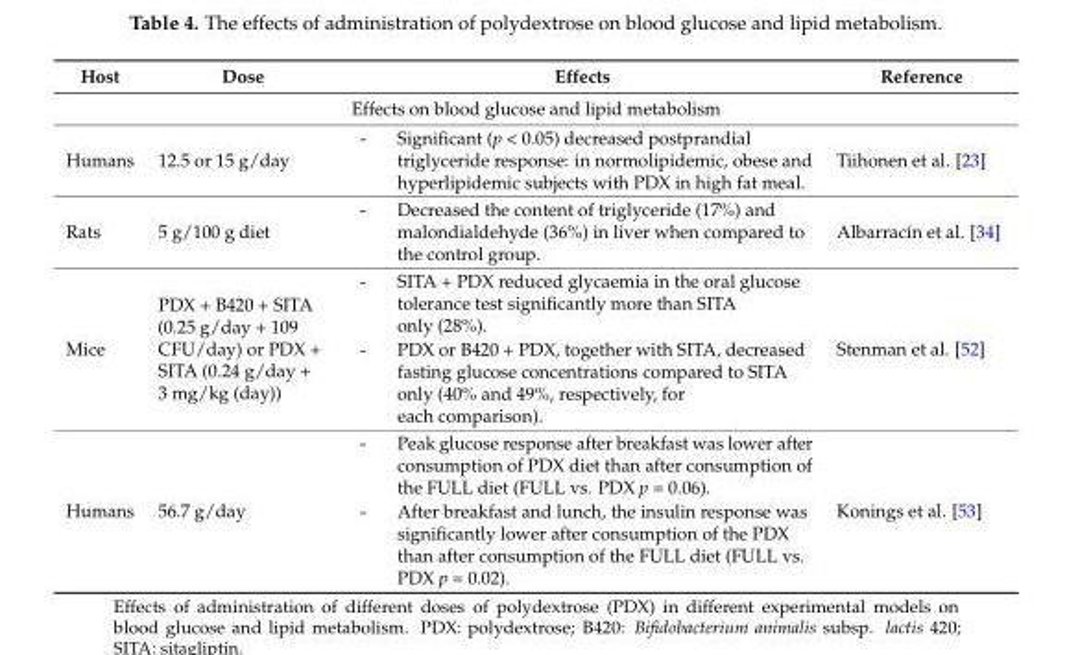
<table><thead><tr><td>Host</td><td>Dose</td><td>Effects</td><td>Reference</td></tr></thead><tbody><tr><td colspan="4">Effects on blood glucose and lipid metabolism</td></tr><tr><td>Humans</td><td>12.5 or 15 g/day</td><td>- Significant (p &lt; 0.05) decreased postprandial triglyceride response: in normolipidemic, obese and hyperlipidemic subjects with PDX in high fat meal.</td><td>Tiihonen et al. [23]</td></tr><tr><td>Rats</td><td>5 g/100 g diet</td><td>- Decreased the content of triglyceride (17%) and malondialdehyde (36%) in liver when compared to the control group.</td><td>Albarracín et al. [34]</td></tr><tr><td>Mice</td><td>PDX + B420 + SITA (0.25 g/day + 109 CFU/day) or PDX + SITA (0.24 g/day + 3 mg/kg (day))</td><td>- SITA + PDX reduced glycaemia in the oral glucose tolerance test significantly more than SITA only (28%). - PDX or B420 + PDX, together with SITA, decreased fasting glucose concentrations compared to SITA only (40% and 49%, respectively, for each comparison).</td><td>Stenman et al. [52]</td></tr><tr><td>Humans</td><td>56.7 g/day</td><td>- Peak glucose response after breakfast was lower after consumption of PDX diet than after consumption of the FULL diet (FULL vs. PDX p = 0.06). - After breakfast and lunch, the insulin response was significantly lower after consumption of the PDX than after consumption of the FULL diet (FULL vs. PDX p = 0.02).</td><td>Konings et al. [53]</td></tr></tbody></table>